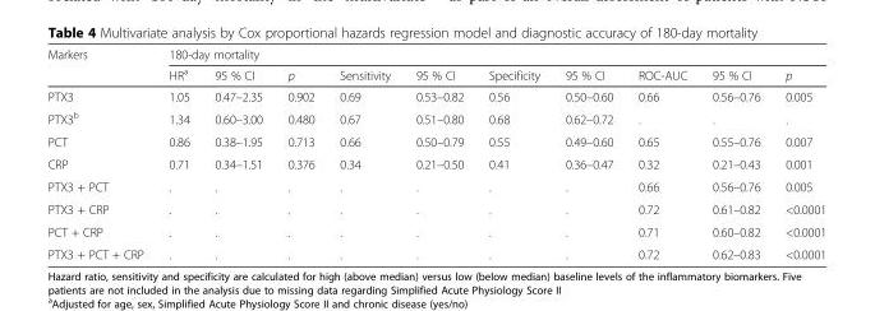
<table><thead><tr><td rowspan="2">Markers</td><td colspan="10">180-day mortality</td></tr><tr><td>HR<sup>a</sup></td><td>95 % CI</td><td>p</td><td>Sensitivity</td><td>95 % CI</td><td>Specificity</td><td>95 % CI</td><td>ROC-AUC</td><td>95 % CI</td><td>p</td></tr></thead><tbody><tr><td>PTX3</td><td>1.05</td><td>0.47–2.35</td><td>0.902</td><td>0.69</td><td>0.53–0.82</td><td>0.56</td><td>0.50–0.60</td><td>0.66</td><td>0.56–0.76</td><td>0.005</td></tr><tr><td>PTX3<sup>b</sup></td><td>1.34</td><td>0.60–3.00</td><td>0.480</td><td>0.67</td><td>0.51–0.80</td><td>0.68</td><td>0.62–0.72</td><td>.</td><td>.</td><td>.</td></tr><tr><td>PCT</td><td>0.86</td><td>0.38–1.95</td><td>0.713</td><td>0.66</td><td>0.50–0.79</td><td>0.55</td><td>0.49–0.60</td><td>0.65</td><td>0.55–0.76</td><td>0.007</td></tr><tr><td>CRP</td><td>0.71</td><td>0.34–1.51</td><td>0.376</td><td>0.34</td><td>0.21–0.50</td><td>0.41</td><td>0.36–0.47</td><td>0.32</td><td>0.21–0.43</td><td>0.001</td></tr><tr><td>PTX3 + PCT</td><td>.</td><td>.</td><td>.</td><td>.</td><td>.</td><td>.</td><td>.</td><td>0.66</td><td>0.56–0.76</td><td>0.005</td></tr><tr><td>PTX3 + CRP</td><td>.</td><td>.</td><td>.</td><td>.</td><td>.</td><td>.</td><td>.</td><td>0.72</td><td>0.61–0.82</td><td>&lt;0.0001</td></tr><tr><td>PCT + CRP</td><td>.</td><td>.</td><td>.</td><td>.</td><td>.</td><td>.</td><td>.</td><td>0.71</td><td>0.60–0.82</td><td>&lt;0.0001</td></tr><tr><td>PTX3 + PCT + CRP</td><td>.</td><td>.</td><td>.</td><td>.</td><td>.</td><td>.</td><td>.</td><td>0.72</td><td>0.62–0.83</td><td>&lt;0.0001</td></tr></tbody></table>